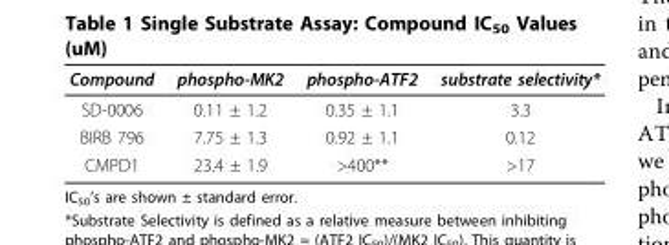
<table><thead><tr><td>Compound</td><td>phospho-MK2</td><td>phospho-ATF2</td><td>substrate selectivity*</td></tr></thead><tbody><tr><td>SD-0006</td><td>0.11 ± 1.2</td><td>0.35 ± 1.1</td><td>3.3</td></tr><tr><td>BIRB 796</td><td>7.75 ± 1.3</td><td>0.92 ± 1.1</td><td>0.12</td></tr><tr><td>CMPD1</td><td>23.4 ± 1.9</td><td>&gt;400**</td><td>&gt;17</td></tr></tbody></table>